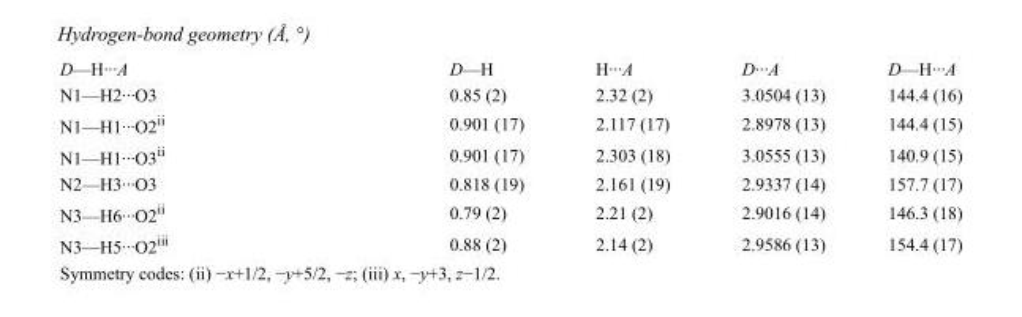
<table><tbody><tr><td>D—H···A</td><td>D—H</td><td>H···A</td><td>D···A</td><td>D—H···A</td></tr><tr><td>N1—H2···O3</td><td>0.85 (2)</td><td>2.32 (2)</td><td>3.0504 (13)</td><td>144.4 (16)</td></tr><tr><td>N1—H1···O2<sup>ii</sup></td><td>0.901 (17)</td><td>2.117 (17)</td><td>2.8978 (13)</td><td>144.4 (15)</td></tr><tr><td>N1—H1···O3<sup>ii</sup></td><td>0.901 (17)</td><td>2.303 (18)</td><td>3.0555 (13)</td><td>140.9 (15)</td></tr><tr><td>N2—H3···O3</td><td>0.818 (19)</td><td>2.161 (19)</td><td>2.9337 (14)</td><td>157.7 (17)</td></tr><tr><td>N3—H6···O2<sup>ii</sup></td><td>0.79 (2)</td><td>2.21 (2)</td><td>2.9016 (14)</td><td>146.3 (18)</td></tr><tr><td>N3—H5···O2<sup>iii</sup></td><td>0.88 (2)</td><td>2.14 (2)</td><td>2.9586 (13)</td><td>154.4 (17)</td></tr></tbody></table>